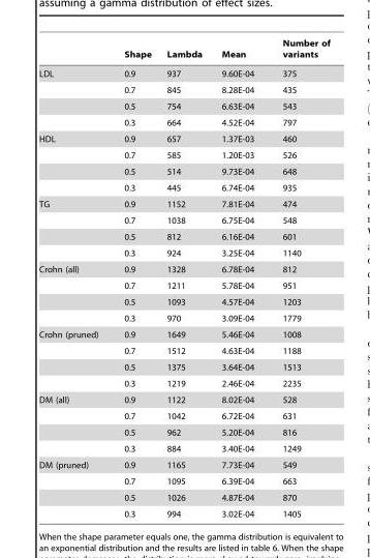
<table><thead><tr><td></td><td>Shape</td><td>Lambda</td><td>Mean</td><td>Number of variants</td></tr></thead><tbody><tr><td rowspan="4">LDL</td><td>0.9</td><td>937</td><td>9.60E-04</td><td>375</td></tr><tr><td>0.7</td><td>845</td><td>8.28E-04</td><td>435</td></tr><tr><td>0.5</td><td>754</td><td>6.63E-04</td><td>543</td></tr><tr><td>0.3</td><td>664</td><td>4.52E-04</td><td>797</td></tr><tr><td rowspan="4">HDL</td><td>0.9</td><td>657</td><td>1.37E-03</td><td>460</td></tr><tr><td>0.7</td><td>585</td><td>1.20E-03</td><td>526</td></tr><tr><td>0.5</td><td>514</td><td>9.73E-04</td><td>648</td></tr><tr><td>0.3</td><td>445</td><td>6.74E-04</td><td>935</td></tr><tr><td rowspan="4">TG</td><td>0.9</td><td>1152</td><td>7.81E-04</td><td>474</td></tr><tr><td>0.7</td><td>1038</td><td>6.75E-04</td><td>548</td></tr><tr><td>0.5</td><td>812</td><td>6.16E-04</td><td>601</td></tr><tr><td>0.3</td><td>924</td><td>3.25E-04</td><td>1140</td></tr><tr><td rowspan="4">Crohn (all)</td><td>0.9</td><td>1328</td><td>6.78E-04</td><td>812</td></tr><tr><td>0.7</td><td>1211</td><td>5.78E-04</td><td>951</td></tr><tr><td>0.5</td><td>1093</td><td>4.57E-04</td><td>1203</td></tr><tr><td>0.3</td><td>970</td><td>3.09E-04</td><td>1779</td></tr><tr><td rowspan="4">Crohn (pruned)</td><td>0.9</td><td>1649</td><td>5.46E-04</td><td>1008</td></tr><tr><td>0.7</td><td>1512</td><td>4.63E-04</td><td>1188</td></tr><tr><td>0.5</td><td>1375</td><td>3.64E-04</td><td>1513</td></tr><tr><td>0.3</td><td>1219</td><td>2.46E-04</td><td>2235</td></tr><tr><td rowspan="4">DM (all)</td><td>0.9</td><td>1122</td><td>8.02E-04</td><td>528</td></tr><tr><td>0.7</td><td>1042</td><td>6.72E-04</td><td>631</td></tr><tr><td>0.5</td><td>962</td><td>5.20E-04</td><td>816</td></tr><tr><td>0.3</td><td>884</td><td>3.40E-04</td><td>1249</td></tr><tr><td rowspan="4">DM (pruned)</td><td>0.9</td><td>1165</td><td>7.73E-04</td><td>549</td></tr><tr><td>0.7</td><td>1095</td><td>6.39E-04</td><td>663</td></tr><tr><td>0.5</td><td>1026</td><td>4.87E-04</td><td>870</td></tr><tr><td>0.3</td><td>994</td><td>3.02E-04</td><td>1405</td></tr></tbody></table>